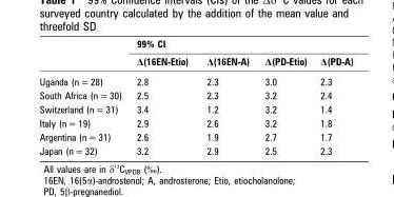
<table><thead><tr><td rowspan="2"></td><td colspan="4">99% CI</td></tr><tr><td>Δ(16EN-Etio)</td><td>Δ(16EN-A)</td><td>Δ(PD-Etio)</td><td>Δ(PD-A)</td></tr></thead><tbody><tr><td>Uganda (n = 28)</td><td>2.8</td><td>2.3</td><td>3.0</td><td>2.3</td></tr><tr><td>South Africa (n = 30)</td><td>2.5</td><td>2.3</td><td>3.2</td><td>2.4</td></tr><tr><td>Switzerland (n = 31)</td><td>3.4</td><td>1.2</td><td>3.2</td><td>1.4</td></tr><tr><td>Italy (n = 19)</td><td>2.9</td><td>2.6</td><td>3.2</td><td>1.8</td></tr><tr><td>Argentina (n = 31)</td><td>2.6</td><td>1.9</td><td>2.7</td><td>1.7</td></tr><tr><td>Japan (n = 32)</td><td>3.2</td><td>2.9</td><td>2.5</td><td>2.3</td></tr></tbody></table>